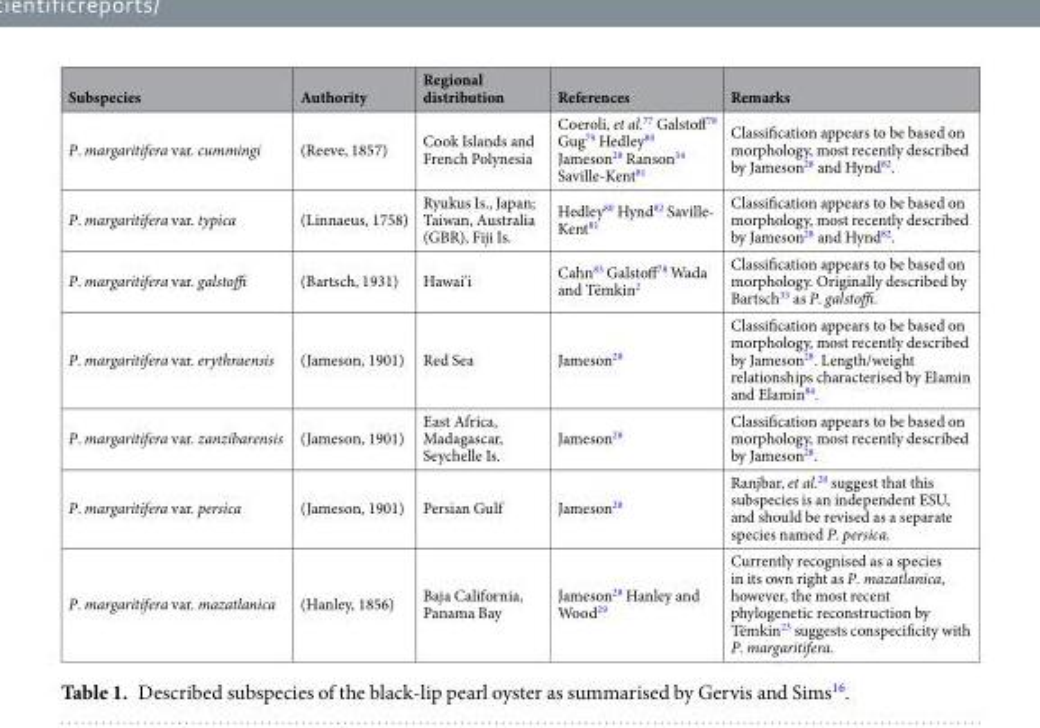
<table><thead><tr><td>Subspecies</td><td>Authority</td><td>Regional distribution</td><td>References</td><td>Remarks</td></tr></thead><tbody><tr><td>P. margaritifera var. cummingi</td><td>(Reeve, 1857)</td><td>Cook Islands and French Polynesia</td><td>Coeroli, et al.<sup>77</sup> Galstoff<sup>78</sup> Gug<sup>79</sup> Hedley<sup>80</sup> Jameson<sup>28</sup> Ranson<sup>34</sup> Saville-Kent<sup>81</sup></td><td>Classification appears to be based on morphology, most recently described by Jameson<sup>28</sup> and Hynd<sup>82</sup>.</td></tr><tr><td>P. margaritifera var. typica</td><td>(Linnaeus, 1758)</td><td>Ryukus Is., Japan; Taiwan, Australia (GBR), Fiji Is.</td><td>Hedley<sup>80</sup> Hynd<sup>82</sup> Saville- Kent<sup>81</sup></td><td>Classification appears to be based on morphology, most recently described by Jameson<sup>28</sup> and Hynd<sup>82</sup>.</td></tr><tr><td>P. margaritifera var. galstoffi</td><td>(Bartsch, 1931)</td><td>Hawai’i</td><td>Cahn<sup>83</sup> Galstoff<sup>78</sup> Wada and Tëmkin<sup>2</sup></td><td>Classification appears to be based on morphology. Originally described by Bartsch<sup>33</sup> as P. galstoffi.</td></tr><tr><td>P. margaritifera var. erythraensis</td><td>(Jameson, 1901)</td><td>Red Sea</td><td>Jameson<sup>28</sup></td><td>Classification appears to be based on morphology, most recently described by Jameson<sup>28</sup>. Length/weight relationships characterised by Elamin and Elamin<sup>84</sup>.</td></tr><tr><td>P. margaritifera var. zanzibarensis</td><td>(Jameson, 1901)</td><td>East Africa, Madagascar, Seychelle Is.</td><td>Jameson<sup>28</sup></td><td>Classification appears to be based on morphology, most recently described by Jameson<sup>28</sup>.</td></tr><tr><td>P. margaritifera var. persica</td><td>(Jameson, 1901)</td><td>Persian Gulf</td><td>Jameson<sup>28</sup></td><td>Ranjbar, et al.<sup>20</sup> suggest that this subspecies is an independent ESU, and should be revised as a separate species named P. persica.</td></tr><tr><td>P. margaritifera var. mazatlanica</td><td>(Hanley, 1856)</td><td>Baja California, Panama Bay</td><td>Jameson<sup>28</sup> Hanley and Wood<sup>29</sup></td><td>Currently recognised as a species in its own right as P. mazatlanica, however, the most recent phylogenetic reconstruction by Tëmkin<sup>23</sup> suggests conspecificity with P. margaritifera.</td></tr></tbody></table>